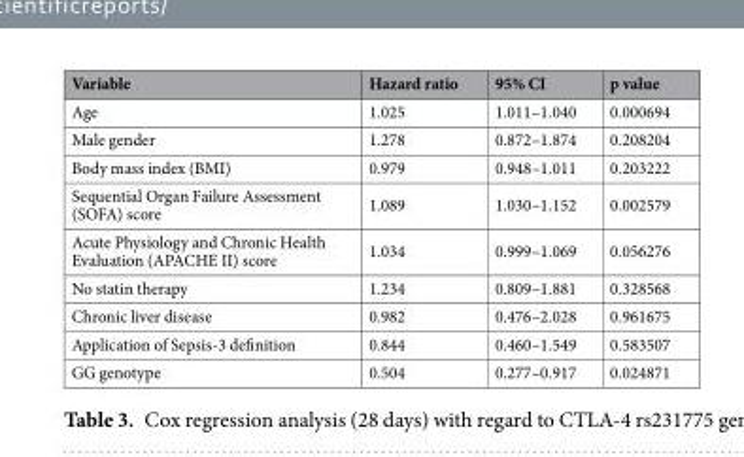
<table><thead><tr><td>Variable</td><td>Hazard ratio</td><td>95% CI</td><td>p value</td></tr></thead><tbody><tr><td>Age</td><td>1.025</td><td>1.011–1.040</td><td>0.000694</td></tr><tr><td>Male gender</td><td>1.278</td><td>0.872–1.874</td><td>0.208204</td></tr><tr><td>Body mass index (BMI)</td><td>0.979</td><td>0.948–1.011</td><td>0.203222</td></tr><tr><td>Sequential Organ Failure Assessment (SOFA) score</td><td>1.089</td><td>1.030–1.152</td><td>0.002579</td></tr><tr><td>Acute Physiology and Chronic Health Evaluation (APACHE II) score</td><td>1.034</td><td>0.999–1.069</td><td>0.056276</td></tr><tr><td>No statin therapy</td><td>1.234</td><td>0.809–1.881</td><td>0.328568</td></tr><tr><td>Chronic liver disease</td><td>0.982</td><td>0.476–2.028</td><td>0.961675</td></tr><tr><td>Application of Sepsis-3 definition</td><td>0.844</td><td>0.460–1.549</td><td>0.583507</td></tr><tr><td>GG genotype</td><td>0.504</td><td>0.277–0.917</td><td>0.024871</td></tr></tbody></table>